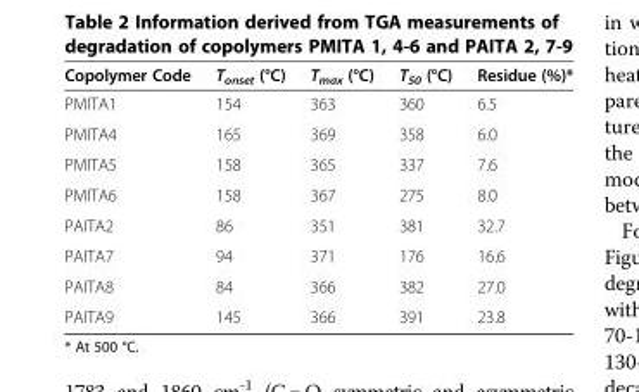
<table><thead><tr><td>Copolymer Code</td><td>T<sub>onset</sub> (°C)</td><td>T<sub>max</sub> (°C)</td><td>T<sub>50</sub> (°C)</td><td>Residue (%)*</td></tr></thead><tbody><tr><td>PMITA1</td><td>154</td><td>363</td><td>360</td><td>6.5</td></tr><tr><td>PMITA4</td><td>165</td><td>369</td><td>358</td><td>6.0</td></tr><tr><td>PMITA5</td><td>158</td><td>365</td><td>337</td><td>7.6</td></tr><tr><td>PMITA6</td><td>158</td><td>367</td><td>275</td><td>8.0</td></tr><tr><td>PAITA2</td><td>86</td><td>351</td><td>381</td><td>32.7</td></tr><tr><td>PAITA7</td><td>94</td><td>371</td><td>176</td><td>16.6</td></tr><tr><td>PAITA8</td><td>84</td><td>366</td><td>382</td><td>27.0</td></tr><tr><td>PAITA9</td><td>145</td><td>366</td><td>391</td><td>23.8</td></tr></tbody></table>